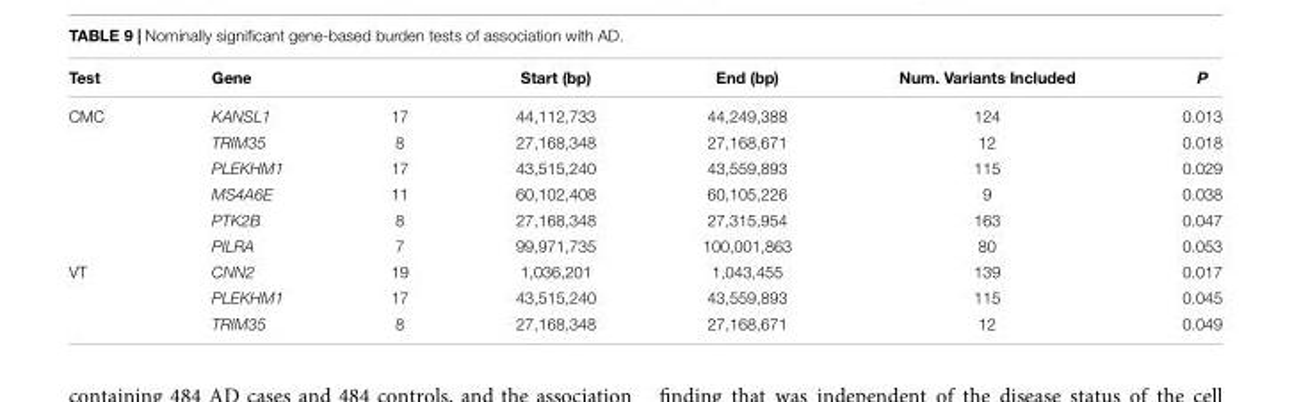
<table><thead><tr><td>Test</td><td>Gene</td><td></td><td>Start (bp)</td><td>End (bp)</td><td>Num. Variants Included</td><td>P</td></tr></thead><tbody><tr><td rowspan="6">CMC</td><td>KANSL1</td><td>17</td><td>44,112,733</td><td>44,249,388</td><td>124</td><td>0.013</td></tr><tr><td>TRIM35</td><td>8</td><td>27,168,348</td><td>27,168,671</td><td>12</td><td>0.018</td></tr><tr><td>PLEKHM1</td><td>17</td><td>43,515,240</td><td>43,559,893</td><td>115</td><td>0.029</td></tr><tr><td>MS4A6E</td><td>11</td><td>60,102,408</td><td>60,105,226</td><td>9</td><td>0.038</td></tr><tr><td>PTK2B</td><td>8</td><td>27,168,348</td><td>27,315,954</td><td>163</td><td>0.047</td></tr><tr><td>PILRA</td><td>7</td><td>99,971,735</td><td>100,001,863</td><td>80</td><td>0.053</td></tr><tr><td rowspan="3">VT</td><td>CNN2</td><td>19</td><td>1,036,201</td><td>1,043,455</td><td>139</td><td>0.017</td></tr><tr><td>PLEKHM1</td><td>17</td><td>43,515,240</td><td>43,559,893</td><td>115</td><td>0.045</td></tr><tr><td>TRIM35</td><td>8</td><td>27,168,348</td><td>27,168,671</td><td>12</td><td>0.049</td></tr></tbody></table>